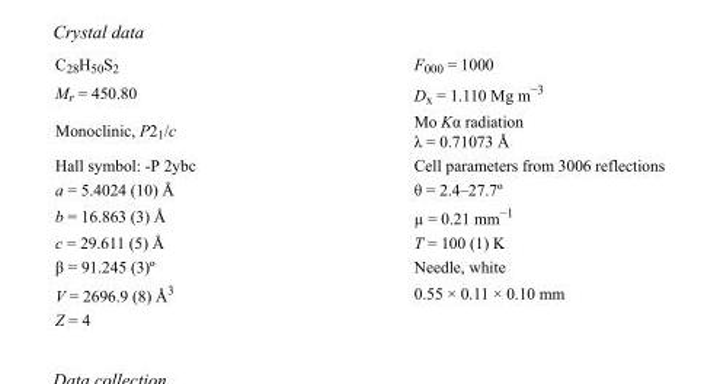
<table><tbody><tr><td>C<sub>28</sub>H<sub>50</sub>S<sub>2</sub></td><td>F<sub>000</sub> = 1000</td></tr><tr><td>M<sub>r</sub> = 450.80</td><td>D<sub>x</sub> = 1.110 Mg m<sup>−3</sup></td></tr><tr><td>Monoclinic, P2<sub>1</sub>/c</td><td>Mo Kα radiation λ = 0.71073 Å</td></tr><tr><td>Hall symbol: -P 2ybc</td><td>Cell parameters from 3006 reflections</td></tr><tr><td>a = 5.4024 (10) Å</td><td>θ = 2.4–27.7º</td></tr><tr><td>b = 16.863 (3) Å</td><td>µ = 0.21 mm<sup>−1</sup></td></tr><tr><td>c = 29.611 (5) Å</td><td>T = 100 (1) K</td></tr><tr><td>β = 91.245 (3)º</td><td>Needle, white</td></tr><tr><td>V = 2696.9 (8) Å<sup>3</sup></td><td>0.55 × 0.11 × 0.10 mm</td></tr><tr><td>Z = 4</td><td></td></tr></tbody></table>